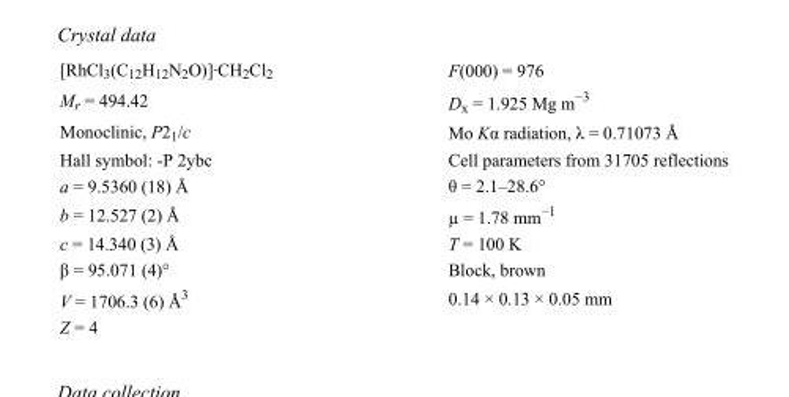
<table><tbody><tr><td>[RhCl<sub>3</sub>(C<sub>12</sub>H<sub>12</sub>N<sub>2</sub>O)]·CH<sub>2</sub>Cl<sub>2</sub></td><td>F(000) = 976</td></tr><tr><td>M<sub>r</sub> = 494.42</td><td>D<sub>x</sub> = 1.925 Mg m<sup>−3</sup></td></tr><tr><td>Monoclinic, P2<sub>1</sub>/c</td><td>Mo Kα radiation, λ = 0.71073 Å</td></tr><tr><td>Hall symbol: -P 2ybc</td><td>Cell parameters from 31705 reflections</td></tr><tr><td>a = 9.5360 (18) Å</td><td>θ = 2.1–28.6°</td></tr><tr><td>b = 12.527 (2) Å</td><td>µ = 1.78 mm<sup>−1</sup></td></tr><tr><td>c = 14.340 (3) Å</td><td>T = 100 K</td></tr><tr><td>β = 95.071 (4)°</td><td>Block, brown</td></tr><tr><td>V = 1706.3 (6) Å<sup>3</sup></td><td>0.14 × 0.13 × 0.05 mm</td></tr><tr><td>Z = 4</td><td></td></tr></tbody></table>